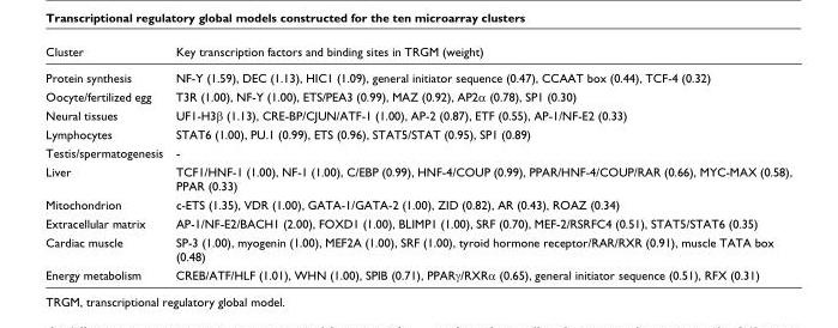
<table><thead><tr><td>Cluster</td><td>Key transcription factors and binding sites in TRGM (weight)</td></tr></thead><tbody><tr><td>Protein synthesis</td><td>NF-Y (1.59), DEC (1.13), HIC1 (1.09), general initiator sequence (0.47), CCAAT box (0.44), TCF-4 (0.32)</td></tr><tr><td>Oocyte/fertilized egg</td><td>T3R (1.00), NF-Y (1.00), ETS/PEA3 (0.99), MAZ (0.92), AP2α (0.78), SP1 (0.30)</td></tr><tr><td>Neural tissues</td><td>UF1-H3β (1.13), CRE-BP/CJUN/ATF-1 (1.00), AP-2 (0.87), ETF (0.55), AP-1/NF-E2 (0.33)</td></tr><tr><td>Lymphocytes</td><td>STAT6 (1.00), PU.1 (0.99), ETS (0.96), STAT5/STAT (0.95), SP1 (0.89)</td></tr><tr><td>Testis/spermatogenesis</td><td>-</td></tr><tr><td>Liver</td><td>TCF1/HNF-1 (1.00), NF-1 (1.00), C/EBP (0.99), HNF-4/COUP (0.99), PPAR/HNF-4/COUP/RAR (0.66), MYC-MAX (0.58), PPAR (0.33)</td></tr><tr><td>Mitochondrion</td><td>c-ETS (1.35), VDR (1.00), GATA-1/GATA-2 (1.00), ZID (0.82), AR (0.43), ROAZ (0.34)</td></tr><tr><td>Extracellular matrix</td><td>AP-1/NF-E2/BACH1 (2.00), FOXD1 (1.00), BLIMP1 (1.00), SRF (0.70), MEF-2/RSRFC4 (0.51), STAT5/STAT6 (0.35)</td></tr><tr><td>Cardiac muscle</td><td>SP-3 (1.00), myogenin (1.00), MEF2A (1.00), SRF (1.00), tyroid hormone receptor/RAR/RXR (0.91), muscle TATA box (0.48)</td></tr><tr><td>Energy metabolism</td><td>CREB/ATF/HLF (1.01), WHN (1.00), SPIB (0.71), PPARγ/RXRα (0.65), general initiator sequence (0.51), RFX (0.31)</td></tr></tbody></table>